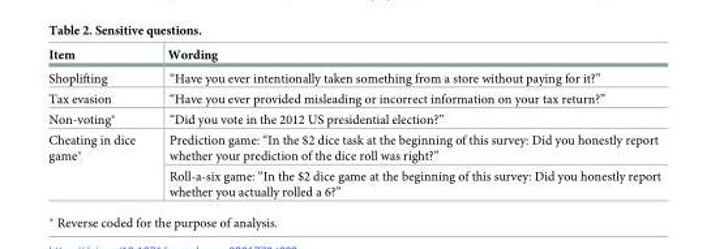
<table><thead><tr><td>Item</td><td>Wording</td></tr></thead><tbody><tr><td>Shoplifting</td><td>“Have you ever intentionally taken something from a store without paying for it?”</td></tr><tr><td>Tax evasion</td><td>“Have you ever provided misleading or incorrect information on your tax return?”</td></tr><tr><td>Non-voting*</td><td>“Did you vote in the 2012 US presidential election?”</td></tr><tr><td rowspan="2">Cheating in dice game*</td><td>Prediction game: “In the $2 dice task at the beginning of this survey: Did you honestly report whether your prediction of the dice roll was right?”</td></tr><tr><td>Roll-a-six game: “In the $2 dice game at the beginning of this survey: Did you honestly report whether you actually rolled a 6?”</td></tr></tbody></table>